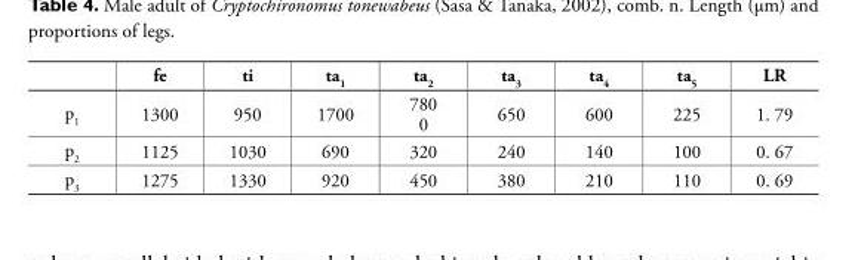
<table><thead><tr><td></td><td>fe</td><td>ti</td><td>ta<sub>1</sub></td><td>ta<sub>2</sub></td><td>ta<sub>3</sub></td><td>ta<sub>4</sub></td><td>ta<sub>5</sub></td><td>LR</td></tr></thead><tbody><tr><td>p<sub>1</sub></td><td>1300</td><td>950</td><td>1700</td><td>780 0</td><td>650</td><td>600</td><td>225</td><td>1. 79</td></tr><tr><td>p<sub>2</sub></td><td>1125</td><td>1030</td><td>690</td><td>320</td><td>240</td><td>140</td><td>100</td><td>0. 67</td></tr><tr><td>p<sub>3</sub></td><td>1275</td><td>1330</td><td>920</td><td>450</td><td>380</td><td>210</td><td>110</td><td>0. 69</td></tr></tbody></table>